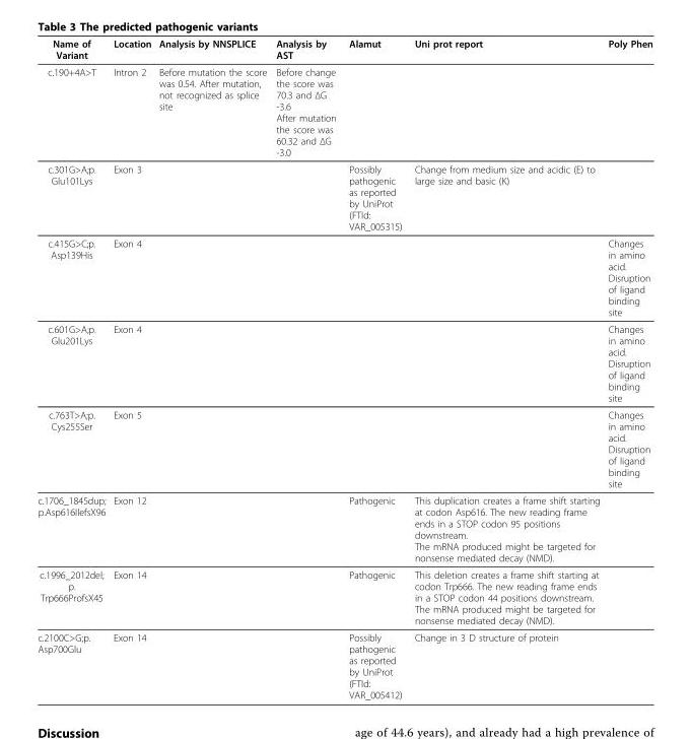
<table><thead><tr><td>Name of Variant</td><td>Location</td><td>Analysis by NNSPLICE</td><td>Analysis by AST</td><td>Alamut</td><td>Uni prot report</td><td>Poly Phen</td></tr></thead><tbody><tr><td>c.190+4A&gt;T</td><td>Intron 2</td><td>Before mutation the score was 0.54. After mutation, not recognized as splice site</td><td>Before change the score was 70.3 and ΔG -3.6 After mutation the score was 60.32 and ΔG -3.0</td><td></td><td></td><td></td></tr><tr><td>c.301G&gt;A;p. Glu101Lys</td><td>Exon 3</td><td></td><td></td><td>Possibly pathogenic as reported by UniProt (FTId: VAR_005315)</td><td>Change from medium size and acidic (E) to large size and basic (K)</td><td></td></tr><tr><td>c.415G&gt;C;p. Asp139His</td><td>Exon 4</td><td></td><td></td><td></td><td></td><td>Changes in amino acid. Disruption of ligand binding site</td></tr><tr><td>c.601G&gt;A;p. Glu201Lys</td><td>Exon 4</td><td></td><td></td><td></td><td></td><td>Changes in amino acid. Disruption of ligand binding site</td></tr><tr><td>c.763T&gt;A;p. Cys255Ser</td><td>Exon 5</td><td></td><td></td><td></td><td></td><td>Changes in amino acid. Disruption of ligand binding site</td></tr><tr><td>c.1706_1845dup; p.Asp616IlefsX96</td><td>Exon 12</td><td></td><td></td><td>Pathogenic</td><td>This duplication creates a frame shift starting at codon Asp616. The new reading frame ends in a STOP codon 95 positions downstream. The mRNA produced might be targeted for nonsense mediated decay (NMD).</td><td></td></tr><tr><td>c.1996_2012del; p. Trp666ProfsX45</td><td>Exon 14</td><td></td><td></td><td>Pathogenic</td><td>This deletion creates a frame shift starting at codon Trp666. The new reading frame ends in a STOP codon 44 positions downstream. The mRNA produced might be targeted for nonsense mediated decay (NMD).</td><td></td></tr><tr><td>c.2100C&gt;G;p. Asp700Glu</td><td>Exon 14</td><td></td><td></td><td>Possibly pathogenic as reported by UniProt (FTId: VAR_005412)</td><td>Change in 3 D structure of protein</td><td></td></tr></tbody></table>